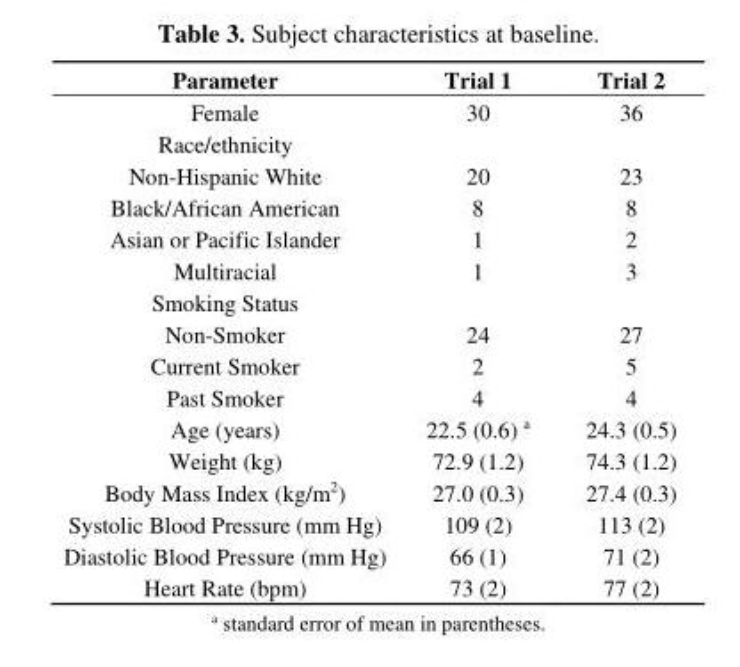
<table><thead><tr><td>Parameter</td><td>Trial 1</td><td>Trial 2</td></tr></thead><tbody><tr><td>Female</td><td>30</td><td>36</td></tr><tr><td colspan="3">Race/ethnicity</td></tr><tr><td>Non-Hispanic White</td><td>20</td><td>23</td></tr><tr><td>Black/African American</td><td>8</td><td>8</td></tr><tr><td>Asian or Pacific Islander</td><td>1</td><td>2</td></tr><tr><td>Multiracial</td><td>1</td><td>3</td></tr><tr><td colspan="3">Smoking Status</td></tr><tr><td>Non-Smoker</td><td>24</td><td>27</td></tr><tr><td>Current Smoker</td><td>2</td><td>5</td></tr><tr><td>Past Smoker</td><td>4</td><td>4</td></tr><tr><td>Age (years)</td><td>22.5 (0.6) <sup>a</sup></td><td>24.3 (0.5)</td></tr><tr><td>Weight (kg)</td><td>72.9 (1.2)</td><td>74.3 (1.2)</td></tr><tr><td>Body Mass Index (kg/m<sup>2</sup>)</td><td>27.0 (0.3)</td><td>27.4 (0.3)</td></tr><tr><td>Systolic Blood Pressure (mm Hg)</td><td>109 (2)</td><td>113 (2)</td></tr><tr><td>Diastolic Blood Pressure (mm Hg)</td><td>66 (1)</td><td>71 (2)</td></tr><tr><td>Heart Rate (bpm)</td><td>73 (2)</td><td>77 (2)</td></tr></tbody></table>